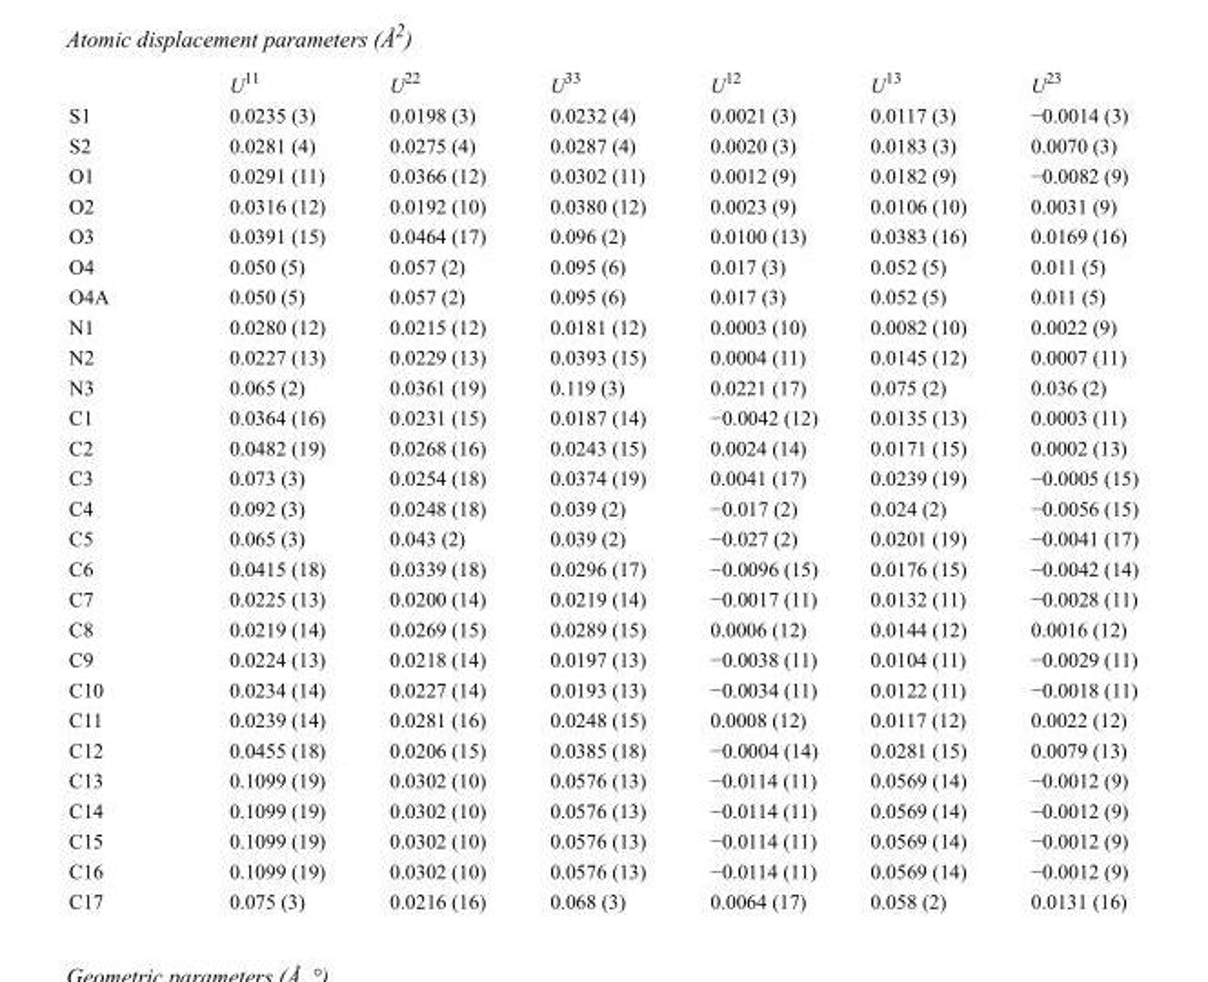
<table><thead><tr><td></td><td>U<sup>11</sup></td><td>U<sup>22</sup></td><td>U<sup>33</sup></td><td>U<sup>12</sup></td><td>U<sup>13</sup></td><td>U<sup>23</sup></td></tr></thead><tbody><tr><td>S1</td><td>0.0235 (3)</td><td>0.0198 (3)</td><td>0.0232 (4)</td><td>0.0021 (3)</td><td>0.0117 (3)</td><td>−0.0014 (3)</td></tr><tr><td>S2</td><td>0.0281 (4)</td><td>0.0275 (4)</td><td>0.0287 (4)</td><td>0.0020 (3)</td><td>0.0183 (3)</td><td>0.0070 (3)</td></tr><tr><td>O1</td><td>0.0291 (11)</td><td>0.0366 (12)</td><td>0.0302 (11)</td><td>0.0012 (9)</td><td>0.0182 (9)</td><td>−0.0082 (9)</td></tr><tr><td>O2</td><td>0.0316 (12)</td><td>0.0192 (10)</td><td>0.0380 (12)</td><td>0.0023 (9)</td><td>0.0106 (10)</td><td>0.0031 (9)</td></tr><tr><td>O3</td><td>0.0391 (15)</td><td>0.0464 (17)</td><td>0.096 (2)</td><td>0.0100 (13)</td><td>0.0383 (16)</td><td>0.0169 (16)</td></tr><tr><td>O4</td><td>0.050 (5)</td><td>0.057 (2)</td><td>0.095 (6)</td><td>0.017 (3)</td><td>0.052 (5)</td><td>0.011 (5)</td></tr><tr><td>O4A</td><td>0.050 (5)</td><td>0.057 (2)</td><td>0.095 (6)</td><td>0.017 (3)</td><td>0.052 (5)</td><td>0.011 (5)</td></tr><tr><td>N1</td><td>0.0280 (12)</td><td>0.0215 (12)</td><td>0.0181 (12)</td><td>0.0003 (10)</td><td>0.0082 (10)</td><td>0.0022 (9)</td></tr><tr><td>N2</td><td>0.0227 (13)</td><td>0.0229 (13)</td><td>0.0393 (15)</td><td>0.0004 (11)</td><td>0.0145 (12)</td><td>0.0007 (11)</td></tr><tr><td>N3</td><td>0.065 (2)</td><td>0.0361 (19)</td><td>0.119 (3)</td><td>0.0221 (17)</td><td>0.075 (2)</td><td>0.036 (2)</td></tr><tr><td>C1</td><td>0.0364 (16)</td><td>0.0231 (15)</td><td>0.0187 (14)</td><td>−0.0042 (12)</td><td>0.0135 (13)</td><td>0.0003 (11)</td></tr><tr><td>C2</td><td>0.0482 (19)</td><td>0.0268 (16)</td><td>0.0243 (15)</td><td>0.0024 (14)</td><td>0.0171 (15)</td><td>0.0002 (13)</td></tr><tr><td>C3</td><td>0.073 (3)</td><td>0.0254 (18)</td><td>0.0374 (19)</td><td>0.0041 (17)</td><td>0.0239 (19)</td><td>−0.0005 (15)</td></tr><tr><td>C4</td><td>0.092 (3)</td><td>0.0248 (18)</td><td>0.039 (2)</td><td>−0.017 (2)</td><td>0.024 (2)</td><td>−0.0056 (15)</td></tr><tr><td>C5</td><td>0.065 (3)</td><td>0.043 (2)</td><td>0.039 (2)</td><td>−0.027 (2)</td><td>0.0201 (19)</td><td>−0.0041 (17)</td></tr><tr><td>C6</td><td>0.0415 (18)</td><td>0.0339 (18)</td><td>0.0296 (17)</td><td>−0.0096 (15)</td><td>0.0176 (15)</td><td>−0.0042 (14)</td></tr><tr><td>C7</td><td>0.0225 (13)</td><td>0.0200 (14)</td><td>0.0219 (14)</td><td>−0.0017 (11)</td><td>0.0132 (11)</td><td>−0.0028 (11)</td></tr><tr><td>C8</td><td>0.0219 (14)</td><td>0.0269 (15)</td><td>0.0289 (15)</td><td>0.0006 (12)</td><td>0.0144 (12)</td><td>0.0016 (12)</td></tr><tr><td>C9</td><td>0.0224 (13)</td><td>0.0218 (14)</td><td>0.0197 (13)</td><td>−0.0038 (11)</td><td>0.0104 (11)</td><td>−0.0029 (11)</td></tr><tr><td>C10</td><td>0.0234 (14)</td><td>0.0227 (14)</td><td>0.0193 (13)</td><td>−0.0034 (11)</td><td>0.0122 (11)</td><td>−0.0018 (11)</td></tr><tr><td>C11</td><td>0.0239 (14)</td><td>0.0281 (16)</td><td>0.0248 (15)</td><td>0.0008 (12)</td><td>0.0117 (12)</td><td>0.0022 (12)</td></tr><tr><td>C12</td><td>0.0455 (18)</td><td>0.0206 (15)</td><td>0.0385 (18)</td><td>−0.0004 (14)</td><td>0.0281 (15)</td><td>0.0079 (13)</td></tr><tr><td>C13</td><td>0.1099 (19)</td><td>0.0302 (10)</td><td>0.0576 (13)</td><td>−0.0114 (11)</td><td>0.0569 (14)</td><td>−0.0012 (9)</td></tr><tr><td>C14</td><td>0.1099 (19)</td><td>0.0302 (10)</td><td>0.0576 (13)</td><td>−0.0114 (11)</td><td>0.0569 (14)</td><td>−0.0012 (9)</td></tr><tr><td>C15</td><td>0.1099 (19)</td><td>0.0302 (10)</td><td>0.0576 (13)</td><td>−0.0114 (11)</td><td>0.0569 (14)</td><td>−0.0012 (9)</td></tr><tr><td>C16</td><td>0.1099 (19)</td><td>0.0302 (10)</td><td>0.0576 (13)</td><td>−0.0114 (11)</td><td>0.0569 (14)</td><td>−0.0012 (9)</td></tr><tr><td>C17</td><td>0.075 (3)</td><td>0.0216 (16)</td><td>0.068 (3)</td><td>0.0064 (17)</td><td>0.058 (2)</td><td>0.0131 (16)</td></tr></tbody></table>